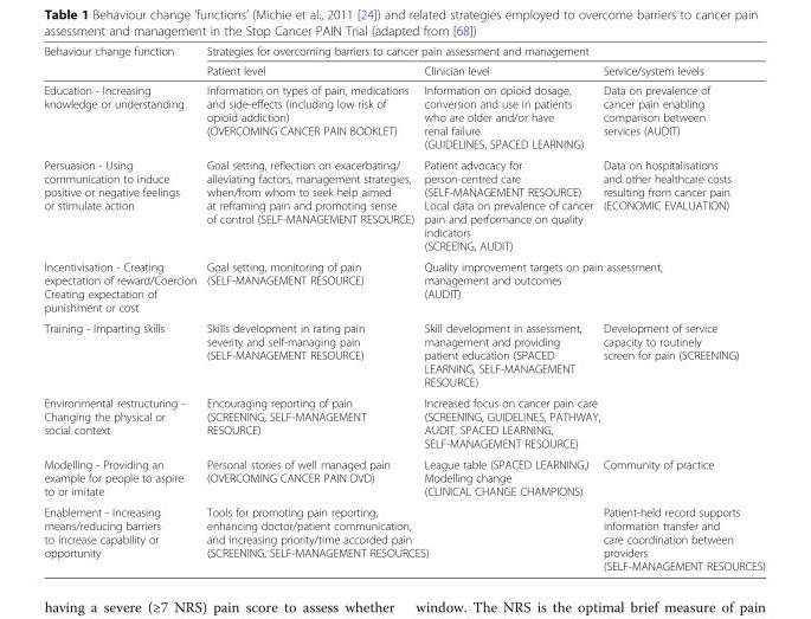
<table><thead><tr><td rowspan="2">Behaviour change function</td><td colspan="3">Strategies for overcoming barriers to cancer pain assessment and management</td></tr><tr><td>Patient level</td><td>Clinician level</td><td>Service/system levels</td></tr></thead><tbody><tr><td>Education - Increasing knowledge or understanding</td><td>Information on types of pain, medications and side-effects (including low risk of opioid addiction) (OVERCOMING CANCER PAIN BOOKLET)</td><td>Information on opioid dosage, conversion and use in patients who are older and/or have renal failure (GUIDELINES, SPACED LEARNING)</td><td>Data on prevalence of cancer pain enabling comparison between services (AUDIT)</td></tr><tr><td>Persuasion - Using communication to induce positive or negative feelings or stimulate action</td><td>Goal setting, reflection on exacerbating/ alleviating factors, management strategies, when/from whom to seek help aimed at reframing pain and promoting sense of control (SELF-MANAGEMENT RESOURCE)</td><td>Patient advocacy for person-centred care (SELF-MANAGEMENT RESOURCE) Local data on prevalence of cancer pain and performance on quality indicators (SCREEING, AUDIT)</td><td>Data on hospitalisations and other healthcare costs resulting from cancer pain (ECONOMIC EVALUATION)</td></tr><tr><td>Incentivisation - Creating expectation of reward/Coercion Creating expectation of punishment or cost</td><td>Goal setting, monitoring of pain (SELF-MANAGEMENT RESOURCE)</td><td colspan="2">Quality improvement targets on pain assessment, management and outcomes (AUDIT)</td></tr><tr><td>Training - Imparting skills</td><td>Skills development in rating pain severity and self-managing pain (SELF-MANAGEMENT RESOURCE)</td><td>Skill development in assessment, management and providing patient education (SPACED LEARNING, SELF-MANAGEMENT RESOURCE)</td><td>Development of service capacity to routinely screen for pain (SCREENING)</td></tr><tr><td>Environmental restructuring - Changing the physical or social context</td><td>Encouraging reporting of pain (SCREENING, SELF-MANAGEMENT RESOURCE)</td><td colspan="2">Increased focus on cancer pain care (SCREENING, GUIDELINES, PATHWAY, AUDIT, SPACED LEARNING, SELF-MANAGEMENT RESOURCE)</td></tr><tr><td>Modelling - Providing an example for people to aspire to or imitate</td><td>Personal stories of well managed pain (OVERCOMING CANCER PAIN DVD)</td><td>League table (SPACED LEARNING,) Modelling change (CLINICAL CHANGE CHAMPIONS)</td><td>Community of practice</td></tr><tr><td>Enablement - Increasing means/reducing barriers to increase capability or opportunity</td><td colspan="2">Tools for promoting pain reporting, enhancing doctor/patient communication, and increasing priority/time accorded pain (SCREENING, SELF-MANAGEMENT RESOURCES)</td><td>Patient-held record supports information transfer and care coordination between providers (SELF-MANAGEMENT RESOURCES)</td></tr></tbody></table>